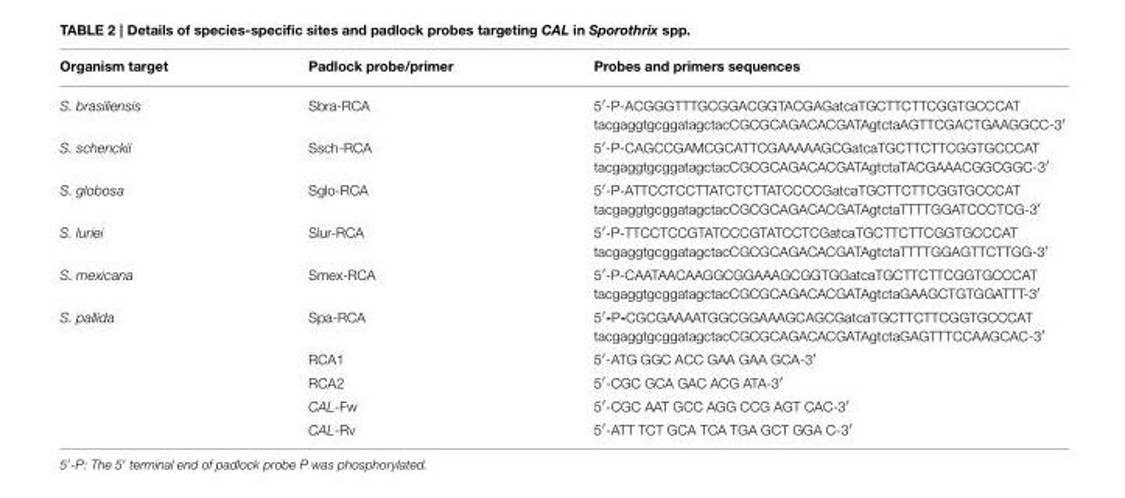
<table><thead><tr><td>Organism target</td><td>Padlock probe/primer</td><td>Probes and primers sequences</td></tr></thead><tbody><tr><td>S. brasiliensis</td><td>Sbra-RCA</td><td>5′-P-ACGGGTTTGCGGACGGTACGAGatcaTGCTTCTTCGGTGCCCAT tacgaggtgcggatagctacCGCGCAGACACGATAgtctaAGTTCGACTGAAGGCC-3′</td></tr><tr><td>S. schenckii</td><td>Ssch-RCA</td><td>5′-P-CAGCCGAMCGCATTCGAAAAAGCGatcaTGCTTCTTCGGTGCCCAT tacgaggtgcggatagctacCGCGCAGACACGATAgtctaTACGAAACGGCGGC-3′</td></tr><tr><td>S. globosa</td><td>Sglo-RCA</td><td>5′-P-ATTCCTCCTTATCTCTTATCCCCGatcaTGCTTCTTCGGTGCCCAT tacgaggtgcggatagctacCGCGCAGACACGATAgtctaTTTTGGATCCCTCG-3′</td></tr><tr><td>S. luriei</td><td>Slur-RCA</td><td>5′-P-TTCCTCCGTATCCCGTATCCTCGatcaTGCTTCTTCGGTGCCCAT tacgaggtgcggatagctacCGCGCAGACACGATAgtctaTTTTGGAGTTCTTGG-3′</td></tr><tr><td>S. mexicana</td><td>Smex-RCA</td><td>5′-P-CAATAACAAGGCGGAAAGCGGTGGatcaTGCTTCTTCGGTGCCCAT tacgaggtgcggatagctacCGCGCAGACACGATAgtctaGAAGCTGTGGATTT-3′</td></tr><tr><td rowspan="5">S. pallida</td><td>Spa-RCA</td><td>5′-P-CGCGAAAATGGCGGAAAGCAGCGatcaTGCTTCTTCGGTGCCCAT tacgaggtgcggatagctacCGCGCAGACACGATAgtctaGAGTTTCCAAGCAC-3′</td></tr><tr><td>RCA1</td><td>5′-ATG GGC ACC GAA GAA GCA-3′</td></tr><tr><td>RCA2</td><td>5′-CGC GCA GAC ACG ATA-3′</td></tr><tr><td>CAL-Fw</td><td>5′-CGC AAT GCC AGG CCG AGT CAC-3′</td></tr><tr><td>CAL-Rv</td><td>5′-ATT TCT GCA TCA TGA GCT GGA C-3′</td></tr></tbody></table>